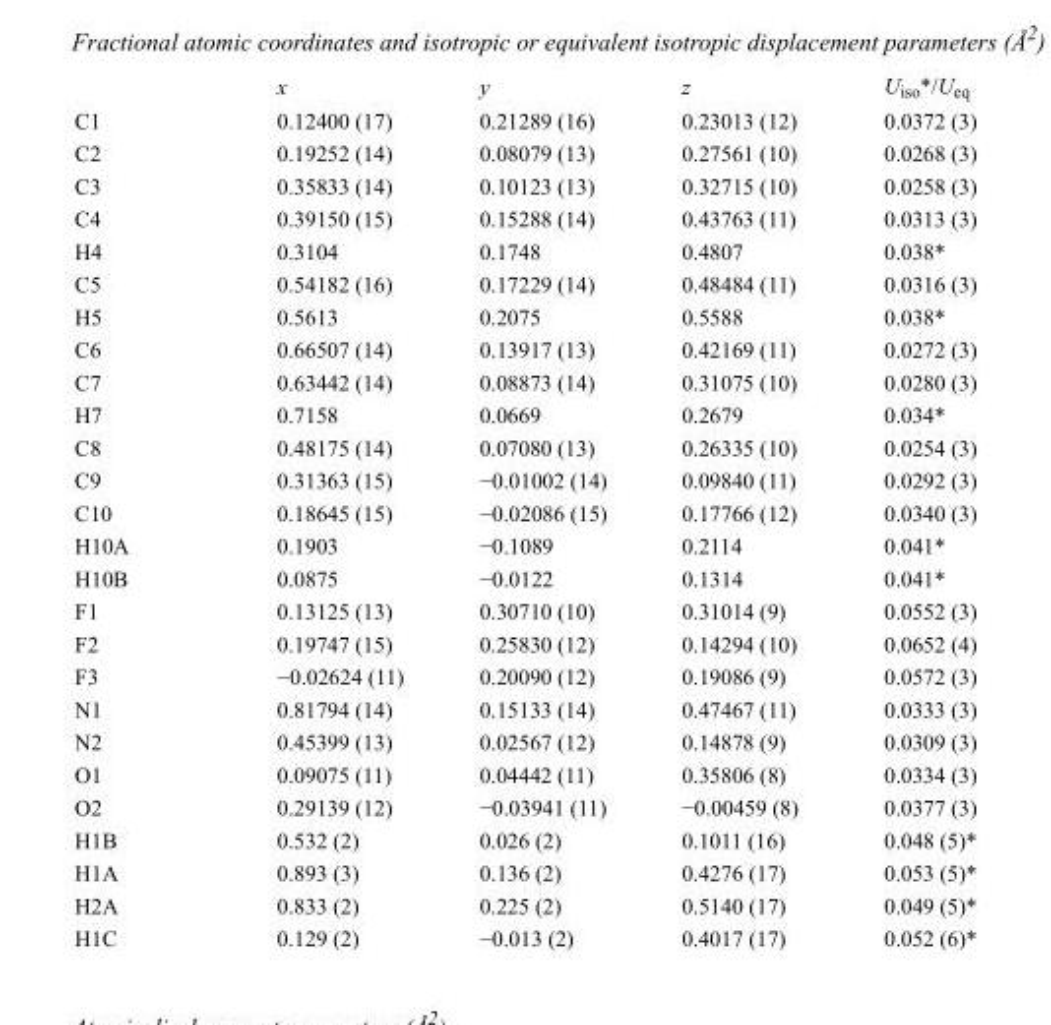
<table><thead><tr><td></td><td>x</td><td>y</td><td>z</td><td>U<sub>iso</sub>*/U<sub>eq</sub></td></tr></thead><tbody><tr><td>C1</td><td>0.12400 (17)</td><td>0.21289 (16)</td><td>0.23013 (12)</td><td>0.0372 (3)</td></tr><tr><td>C2</td><td>0.19252 (14)</td><td>0.08079 (13)</td><td>0.27561 (10)</td><td>0.0268 (3)</td></tr><tr><td>C3</td><td>0.35833 (14)</td><td>0.10123 (13)</td><td>0.32715 (10)</td><td>0.0258 (3)</td></tr><tr><td>C4</td><td>0.39150 (15)</td><td>0.15288 (14)</td><td>0.43763 (11)</td><td>0.0313 (3)</td></tr><tr><td>H4</td><td>0.3104</td><td>0.1748</td><td>0.4807</td><td>0.038*</td></tr><tr><td>C5</td><td>0.54182 (16)</td><td>0.17229 (14)</td><td>0.48484 (11)</td><td>0.0316 (3)</td></tr><tr><td>H5</td><td>0.5613</td><td>0.2075</td><td>0.5588</td><td>0.038*</td></tr><tr><td>C6</td><td>0.66507 (14)</td><td>0.13917 (13)</td><td>0.42169 (11)</td><td>0.0272 (3)</td></tr><tr><td>C7</td><td>0.63442 (14)</td><td>0.08873 (14)</td><td>0.31075 (10)</td><td>0.0280 (3)</td></tr><tr><td>H7</td><td>0.7158</td><td>0.0669</td><td>0.2679</td><td>0.034*</td></tr><tr><td>C8</td><td>0.48175 (14)</td><td>0.07080 (13)</td><td>0.26335 (10)</td><td>0.0254 (3)</td></tr><tr><td>C9</td><td>0.31363 (15)</td><td>−0.01002 (14)</td><td>0.09840 (11)</td><td>0.0292 (3)</td></tr><tr><td>C10</td><td>0.18645 (15)</td><td>−0.02086 (15)</td><td>0.17766 (12)</td><td>0.0340 (3)</td></tr><tr><td>H10A</td><td>0.1903</td><td>−0.1089</td><td>0.2114</td><td>0.041*</td></tr><tr><td>H10B</td><td>0.0875</td><td>−0.0122</td><td>0.1314</td><td>0.041*</td></tr><tr><td>F1</td><td>0.13125 (13)</td><td>0.30710 (10)</td><td>0.31014 (9)</td><td>0.0552 (3)</td></tr><tr><td>F2</td><td>0.19747 (15)</td><td>0.25830 (12)</td><td>0.14294 (10)</td><td>0.0652 (4)</td></tr><tr><td>F3</td><td>−0.02624 (11)</td><td>0.20090 (12)</td><td>0.19086 (9)</td><td>0.0572 (3)</td></tr><tr><td>N1</td><td>0.81794 (14)</td><td>0.15133 (14)</td><td>0.47467 (11)</td><td>0.0333 (3)</td></tr><tr><td>N2</td><td>0.45399 (13)</td><td>0.02567 (12)</td><td>0.14878 (9)</td><td>0.0309 (3)</td></tr><tr><td>O1</td><td>0.09075 (11)</td><td>0.04442 (11)</td><td>0.35806 (8)</td><td>0.0334 (3)</td></tr><tr><td>O2</td><td>0.29139 (12)</td><td>−0.03941 (11)</td><td>−0.00459 (8)</td><td>0.0377 (3)</td></tr><tr><td>H1B</td><td>0.532 (2)</td><td>0.026 (2)</td><td>0.1011 (16)</td><td>0.048 (5)*</td></tr><tr><td>H1A</td><td>0.893 (3)</td><td>0.136 (2)</td><td>0.4276 (17)</td><td>0.053 (5)*</td></tr><tr><td>H2A</td><td>0.833 (2)</td><td>0.225 (2)</td><td>0.5140 (17)</td><td>0.049 (5)*</td></tr><tr><td>H1C</td><td>0.129 (2)</td><td>−0.013 (2)</td><td>0.4017 (17)</td><td>0.052 (6)*</td></tr></tbody></table>